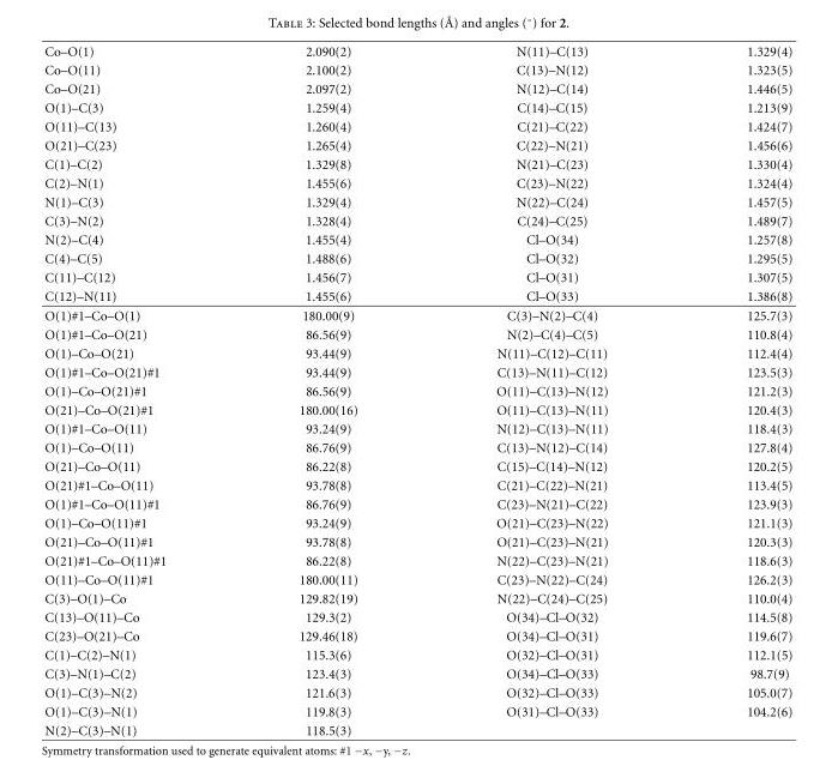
<table><tbody><tr><td>Co–O(1)</td><td>2.090(2)</td><td>N(11)–C(13)</td><td>1.329(4)</td></tr><tr><td>Co–O(11)</td><td>2.100(2)</td><td>C(13)–N(12)</td><td>1.323(5)</td></tr><tr><td>Co–O(21)</td><td>2.097(2)</td><td>N(12)–C(14)</td><td>1.446(5)</td></tr><tr><td>O(1)–C(3)</td><td>1.259(4)</td><td>C(14)–C(15)</td><td>1.213(9)</td></tr><tr><td>O(11)–C(13)</td><td>1.260(4)</td><td>C(21)–C(22)</td><td>1.424(7)</td></tr><tr><td>O(21)–C(23)</td><td>1.265(4)</td><td>C(22)–N(21)</td><td>1.456(6)</td></tr><tr><td>C(1)–C(2)</td><td>1.329(8)</td><td>N(21)–C(23)</td><td>1.330(4)</td></tr><tr><td>C(2)–N(1)</td><td>1.455(6)</td><td>C(23)–N(22)</td><td>1.324(4)</td></tr><tr><td>N(1)–C(3)</td><td>1.329(4)</td><td>N(22)–C(24)</td><td>1.457(5)</td></tr><tr><td>C(3)–N(2)</td><td>1.328(4)</td><td>C(24)–C(25)</td><td>1.489(7)</td></tr><tr><td>N(2)–C(4)</td><td>1.455(4)</td><td>Cl–O(34)</td><td>1.257(8)</td></tr><tr><td>C(4)–C(5)</td><td>1.488(6)</td><td>Cl–O(32)</td><td>1.295(5)</td></tr><tr><td>C(11)–C(12)</td><td>1.456(7)</td><td>Cl–O(31)</td><td>1.307(5)</td></tr><tr><td>C(12)–N(11)</td><td>1.455(6)</td><td>Cl–O(33)</td><td>1.386(8)</td></tr><tr><td>O(1)#1–Co–O(1)</td><td>180.00(9)</td><td>C(3)–N(2)–C(4)</td><td>125.7(3)</td></tr><tr><td>O(1)#1–Co–O(21)</td><td>86.56(9)</td><td>N(2)–C(4)–C(5)</td><td>110.8(4)</td></tr><tr><td>O(1)–Co–O(21)</td><td>93.44(9)</td><td>N(11)–C(12)–C(11)</td><td>112.4(4)</td></tr><tr><td>O(1)#1–Co–O(21)#1</td><td>93.44(9)</td><td>C(13)–N(11)–C(12)</td><td>123.5(3)</td></tr><tr><td>O(1)–Co–O(21)#1</td><td>86.56(9)</td><td>O(11)–C(13)–N(12)</td><td>121.2(3)</td></tr><tr><td>O(21)–Co–O(21)#1</td><td>180.00(16)</td><td>O(11)–C(13)–N(11)</td><td>120.4(3)</td></tr><tr><td>O(1)#1–Co–O(11)</td><td>93.24(9)</td><td>N(12)–C(13)–N(11)</td><td>118.4(3)</td></tr><tr><td>O(1)–Co–O(11)</td><td>86.76(9)</td><td>C(13)–N(12)–C(14)</td><td>127.8(4)</td></tr><tr><td>O(21)–Co–O(11)</td><td>86.22(8)</td><td>C(15)–C(14)–N(12)</td><td>120.2(5)</td></tr><tr><td>O(21)#1–Co–O(11)</td><td>93.78(8)</td><td>C(21)–C(22)–N(21)</td><td>113.4(5)</td></tr><tr><td>O(1)#1–Co–O(11)#1</td><td>86.76(9)</td><td>C(23)–N(21)–C(22)</td><td>123.9(3)</td></tr><tr><td>O(1)–Co–O(11)#1</td><td>93.24(9)</td><td>O(21)–C(23)–N(22)</td><td>121.1(3)</td></tr><tr><td>O(21)–Co–O(11)#1</td><td>93.78(8)</td><td>O(21)–C(23)–N(21)</td><td>120.3(3)</td></tr><tr><td>O(21)#1–Co–O(11)#1</td><td>86.22(8)</td><td>N(22)–C(23)–N(21)</td><td>118.6(3)</td></tr><tr><td>O(11)–Co–O(11)#1</td><td>180.00(11)</td><td>C(23)–N(22)–C(24)</td><td>126.2(3)</td></tr><tr><td>C(3)–O(1)–Co</td><td>129.82(19)</td><td>N(22)–C(24)–C(25)</td><td>110.0(4)</td></tr><tr><td>C(13)–O(11)–Co</td><td>129.3(2)</td><td>O(34)–Cl–O(32)</td><td>114.5(8)</td></tr><tr><td>C(23)–O(21)–Co</td><td>129.46(18)</td><td>O(34)–Cl–O(31)</td><td>119.6(7)</td></tr><tr><td>C(1)–C(2)–N(1)</td><td>115.3(6)</td><td>O(32)–Cl–O(31)</td><td>112.1(5)</td></tr><tr><td>C(3)–N(1)–C(2)</td><td>123.4(3)</td><td>O(34)–Cl–O(33)</td><td>98.7(9)</td></tr><tr><td>O(1)–C(3)–N(2)</td><td>121.6(3)</td><td>O(32)–Cl–O(33)</td><td>105.0(7)</td></tr><tr><td>O(1)–C(3)–N(1)</td><td>119.8(3)</td><td>O(31)–Cl–O(33)</td><td>104.2(6)</td></tr><tr><td>N(2)–C(3)–N(1)</td><td>118.5(3)</td><td></td><td></td></tr></tbody></table>